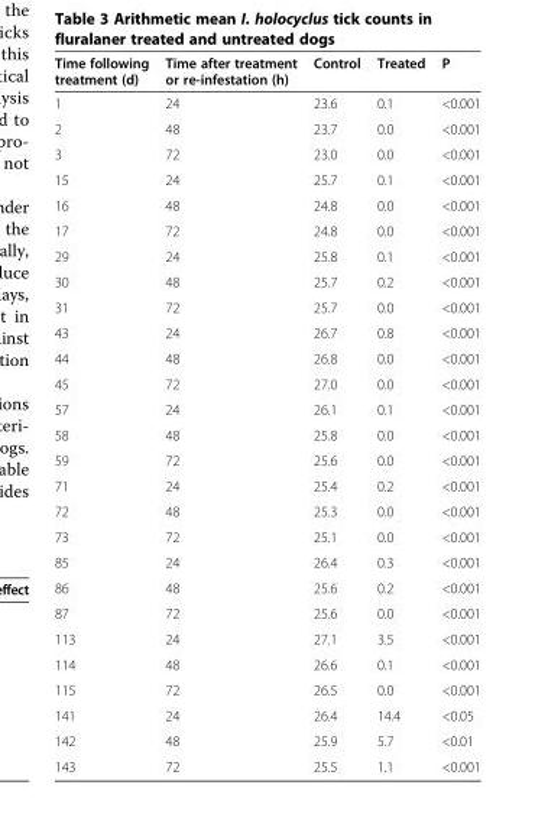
<table><thead><tr><td>Time following treatment (d)</td><td>Time after treatment or re-infestation (h)</td><td>Control</td><td>Treated</td><td>P</td></tr></thead><tbody><tr><td>1</td><td>24</td><td>23.6</td><td>0.1</td><td>&lt;0.001</td></tr><tr><td>2</td><td>48</td><td>23.7</td><td>0.0</td><td>&lt;0.001</td></tr><tr><td>3</td><td>72</td><td>23.0</td><td>0.0</td><td>&lt;0.001</td></tr><tr><td>15</td><td>24</td><td>25.7</td><td>0.1</td><td>&lt;0.001</td></tr><tr><td>16</td><td>48</td><td>24.8</td><td>0.0</td><td>&lt;0.001</td></tr><tr><td>17</td><td>72</td><td>24.8</td><td>0.0</td><td>&lt;0.001</td></tr><tr><td>29</td><td>24</td><td>25.8</td><td>0.1</td><td>&lt;0.001</td></tr><tr><td>30</td><td>48</td><td>25.7</td><td>0.2</td><td>&lt;0.001</td></tr><tr><td>31</td><td>72</td><td>25.7</td><td>0.0</td><td>&lt;0.001</td></tr><tr><td>43</td><td>24</td><td>26.7</td><td>0.8</td><td>&lt;0.001</td></tr><tr><td>44</td><td>48</td><td>26.8</td><td>0.0</td><td>&lt;0.001</td></tr><tr><td>45</td><td>72</td><td>27.0</td><td>0.0</td><td>&lt;0.001</td></tr><tr><td>57</td><td>24</td><td>26.1</td><td>0.1</td><td>&lt;0.001</td></tr><tr><td>58</td><td>48</td><td>25.8</td><td>0.0</td><td>&lt;0.001</td></tr><tr><td>59</td><td>72</td><td>25.6</td><td>0.0</td><td>&lt;0.001</td></tr><tr><td>71</td><td>24</td><td>25.4</td><td>0.2</td><td>&lt;0.001</td></tr><tr><td>72</td><td>48</td><td>25.3</td><td>0.0</td><td>&lt;0.001</td></tr><tr><td>73</td><td>72</td><td>25.1</td><td>0.0</td><td>&lt;0.001</td></tr><tr><td>85</td><td>24</td><td>26.4</td><td>0.3</td><td>&lt;0.001</td></tr><tr><td>86</td><td>48</td><td>25.6</td><td>0.2</td><td>&lt;0.001</td></tr><tr><td>87</td><td>72</td><td>25.6</td><td>0.0</td><td>&lt;0.001</td></tr><tr><td>113</td><td>24</td><td>27.1</td><td>3.5</td><td>&lt;0.001</td></tr><tr><td>114</td><td>48</td><td>26.6</td><td>0.1</td><td>&lt;0.001</td></tr><tr><td>115</td><td>72</td><td>26.5</td><td>0.0</td><td>&lt;0.001</td></tr><tr><td>141</td><td>24</td><td>26.4</td><td>14.4</td><td>&lt;0.05</td></tr><tr><td>142</td><td>48</td><td>25.9</td><td>5.7</td><td>&lt;0.01</td></tr><tr><td>143</td><td>72</td><td>25.5</td><td>1.1</td><td>&lt;0.001</td></tr></tbody></table>